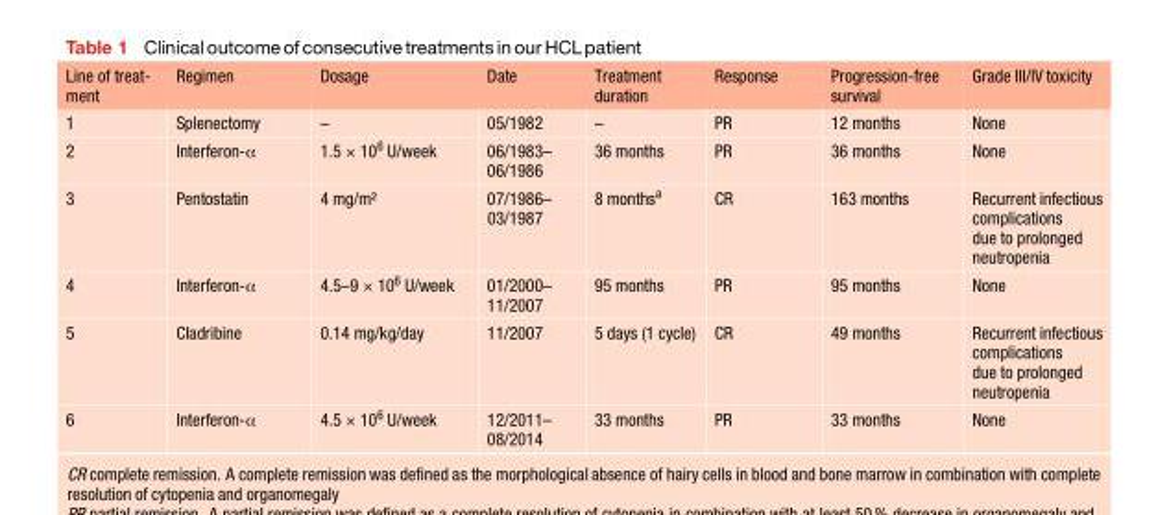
<table><thead><tr><td>Line of treat- ment</td><td>Regimen</td><td>Dosage</td><td>Date</td><td>Treatment duration</td><td>Response</td><td>Progression-free survival</td><td>Grade III/IV toxicity</td></tr></thead><tbody><tr><td>1</td><td>Splenectomy</td><td>–</td><td>05/1982</td><td>–</td><td>PR</td><td>12 months</td><td>None</td></tr><tr><td>2</td><td>Interferon-α</td><td>1.5 × 10<sup>6</sup> U/week</td><td>06/1983– 06/1986</td><td>36 months</td><td>PR</td><td>36 months</td><td>None</td></tr><tr><td>3</td><td>Pentostatin</td><td>4 mg/m²</td><td>07/1986– 03/1987</td><td>8 months<sup>a</sup></td><td>CR</td><td>163 months</td><td>Recurrent infectious complications due to prolonged neutropenia</td></tr><tr><td>4</td><td>Interferon-α</td><td>4.5–9 × 10<sup>6</sup> U/week</td><td>01/2000– 11/2007</td><td>95 months</td><td>PR</td><td>95 months</td><td>None</td></tr><tr><td>5</td><td>Cladribine</td><td>0.14 mg/kg/day</td><td>11/2007</td><td>5 days (1 cycle)</td><td>CR</td><td>49 months</td><td>Recurrent infectious complications due to prolonged neutropenia</td></tr><tr><td>6</td><td>Interferon-α</td><td>4.5 × 10<sup>6</sup> U/week</td><td>12/2011– 08/2014</td><td>33 months</td><td>PR</td><td>33 months</td><td>None</td></tr></tbody></table>